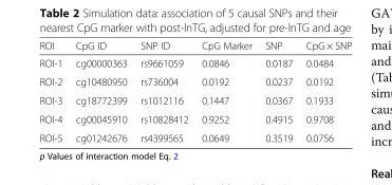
<table><thead><tr><td>ROI</td><td>CpG ID</td><td>SNP ID</td><td>CpG Marker</td><td>SNP</td><td>CpG × SNP</td></tr></thead><tbody><tr><td>ROI-1</td><td>cg00000363</td><td>rs9661059</td><td>0.0846</td><td>0.0187</td><td>0.0484</td></tr><tr><td>ROI-2</td><td>cg10480950</td><td>rs736004</td><td>0.0192</td><td>0.0237</td><td>0.0192</td></tr><tr><td>ROI-3</td><td>cg18772399</td><td>rs1012116</td><td>0.1447</td><td>0.0367</td><td>0.1933</td></tr><tr><td>ROI-4</td><td>cg00045910</td><td>rs10828412</td><td>0.9252</td><td>0.4915</td><td>0.9708</td></tr><tr><td>ROI-5</td><td>cg01242676</td><td>rs4399565</td><td>0.0649</td><td>0.3519</td><td>0.0756</td></tr></tbody></table>